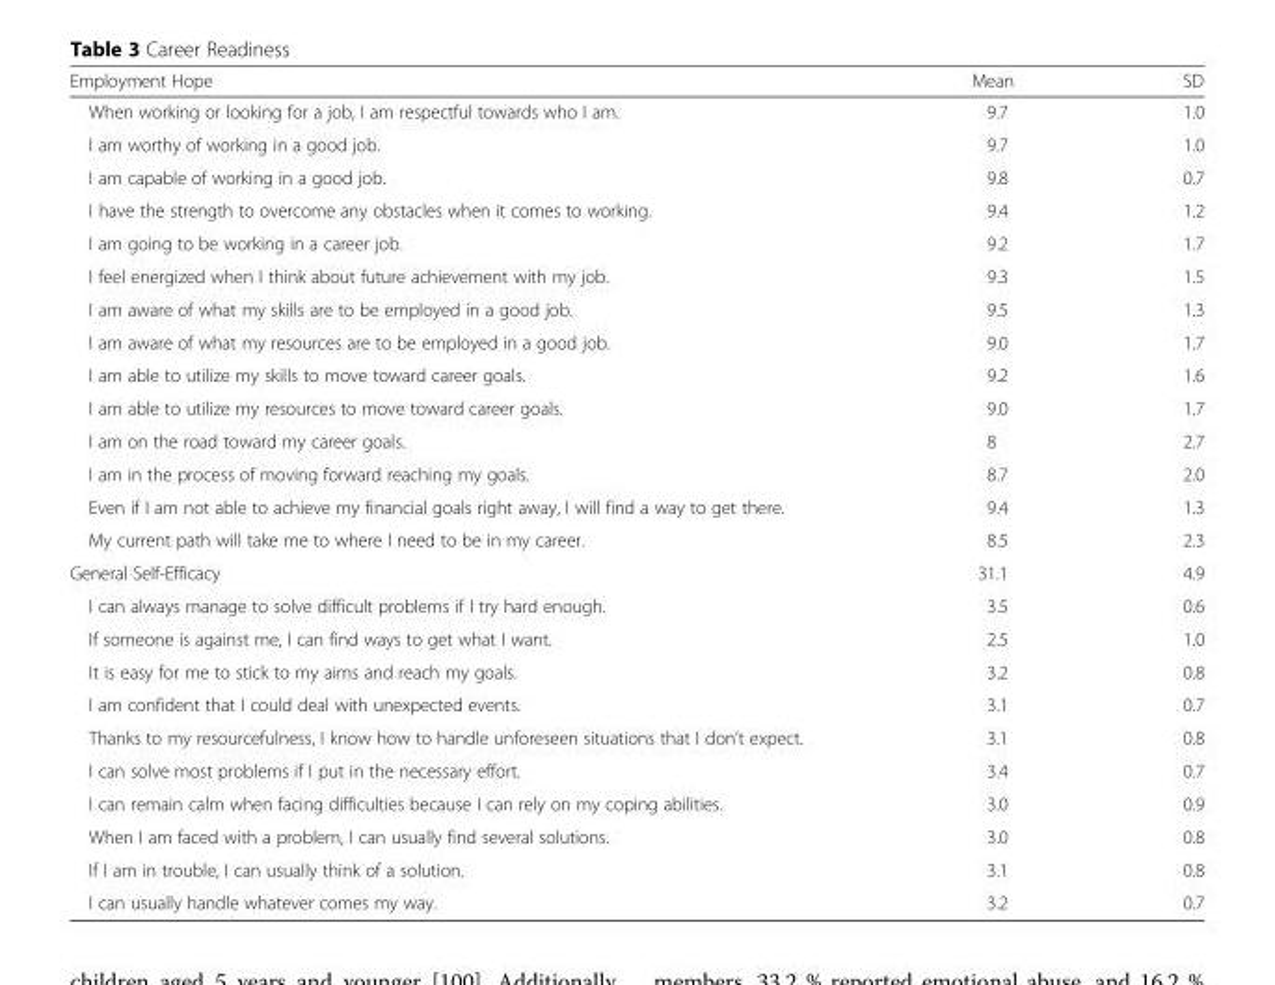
<table><thead><tr><td>Employment Hope</td><td>Mean</td><td>SD</td></tr></thead><tbody><tr><td>When working or looking for a job, I am respectful towards who I am.</td><td>9.7</td><td>1.0</td></tr><tr><td>I am worthy of working in a good job.</td><td>9.7</td><td>1.0</td></tr><tr><td>I am capable of working in a good job.</td><td>9.8</td><td>0.7</td></tr><tr><td>I have the strength to overcome any obstacles when it comes to working.</td><td>9.4</td><td>1.2</td></tr><tr><td>I am going to be working in a career job.</td><td>9.2</td><td>1.7</td></tr><tr><td>I feel energized when I think about future achievement with my job.</td><td>9.3</td><td>1.5</td></tr><tr><td>I am aware of what my skills are to be employed in a good job.</td><td>9.5</td><td>1.3</td></tr><tr><td>I am aware of what my resources are to be employed in a good job.</td><td>9.0</td><td>1.7</td></tr><tr><td>I am able to utilize my skills to move toward career goals.</td><td>9.2</td><td>1.6</td></tr><tr><td>I am able to utilize my resources to move toward career goals.</td><td>9.0</td><td>1.7</td></tr><tr><td>I am on the road toward my career goals.</td><td>8</td><td>2.7</td></tr><tr><td>I am in the process of moving forward reaching my goals.</td><td>8.7</td><td>2.0</td></tr><tr><td>Even if I am not able to achieve my financial goals right away, I will find a way to get there.</td><td>9.4</td><td>1.3</td></tr><tr><td>My current path will take me to where I need to be in my career.</td><td>8.5</td><td>2.3</td></tr><tr><td>General Self-Efficacy</td><td>31.1</td><td>4.9</td></tr><tr><td>I can always manage to solve difficult problems if I try hard enough.</td><td>3.5</td><td>0.6</td></tr><tr><td>If someone is against me, I can find ways to get what I want.</td><td>2.5</td><td>1.0</td></tr><tr><td>It is easy for me to stick to my aims and reach my goals.</td><td>3.2</td><td>0.8</td></tr><tr><td>I am confident that I could deal with unexpected events.</td><td>3.1</td><td>0.7</td></tr><tr><td>Thanks to my resourcefulness, I know how to handle unforeseen situations that I don’t expect.</td><td>3.1</td><td>0.8</td></tr><tr><td>I can solve most problems if I put in the necessary effort.</td><td>3.4</td><td>0.7</td></tr><tr><td>I can remain calm when facing difficulties because I can rely on my coping abilities.</td><td>3.0</td><td>0.9</td></tr><tr><td>When I am faced with a problem, I can usually find several solutions.</td><td>3.0</td><td>0.8</td></tr><tr><td>If I am in trouble, I can usually think of a solution.</td><td>3.1</td><td>0.8</td></tr><tr><td>I can usually handle whatever comes my way.</td><td>3.2</td><td>0.7</td></tr></tbody></table>